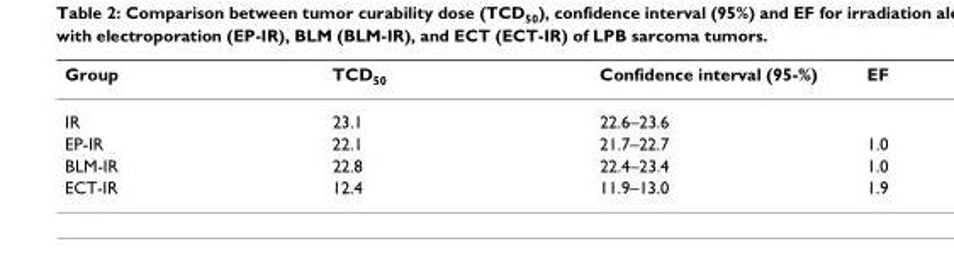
<table><thead><tr><td>Group</td><td>TCD50</td><td>Confidence interval (95-%)</td><td>EF</td></tr></thead><tbody><tr><td>IR</td><td>23.1</td><td>22.6–23.6</td><td></td></tr><tr><td>EP-IR</td><td>22.1</td><td>21.7–22.7</td><td>1.0</td></tr><tr><td>BLM-IR</td><td>22.8</td><td>22.4–23.4</td><td>1.0</td></tr><tr><td>ECT-IR</td><td>12.4</td><td>11.9–13.0</td><td>1.9</td></tr></tbody></table>